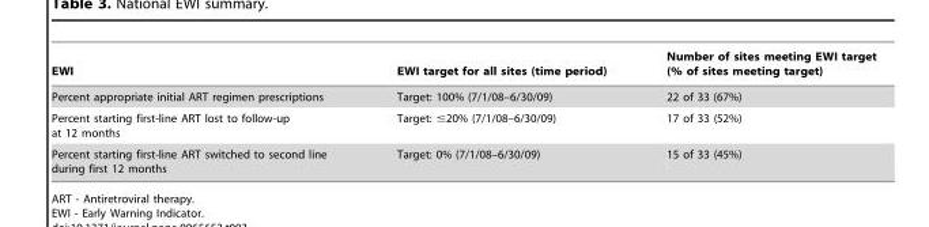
<table><thead><tr><td>EWI</td><td>EWI target for all sites (time period)</td><td>Number of sites meeting EWI target (% of sites meeting target)</td></tr></thead><tbody><tr><td>Percent appropriate initial ART regimen prescriptions</td><td>Target: 100% (7/1/08–6/30/09)</td><td>22 of 33 (67%)</td></tr><tr><td>Percent starting first-line ART lost to follow-up at 12 months</td><td>Target: ≤20% (7/1/08–6/30/09)</td><td>17 of 33 (52%)</td></tr><tr><td>Percent starting first-line ART switched to second line during first 12 months</td><td>Target: 0% (7/1/08–6/30/09)</td><td>15 of 33 (45%)</td></tr></tbody></table>